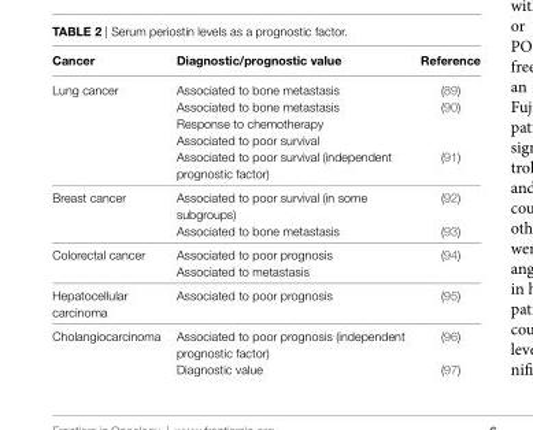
<table><thead><tr><td>Cancer</td><td>Diagnostic/prognostic value</td><td>Reference</td></tr></thead><tbody><tr><td rowspan="5">Lung cancer</td><td>Associated to bone metastasis</td><td>(89)</td></tr><tr><td>Associated to bone metastasis</td><td rowspan="3">(90)</td></tr><tr><td>Response to chemotherapy</td></tr><tr><td>Associated to poor survival</td></tr><tr><td>Associated to poor survival (independent prognostic factor)</td><td>(91)</td></tr><tr><td rowspan="2">Breast cancer</td><td>Associated to poor survival (in some subgroups)</td><td>(92)</td></tr><tr><td>Associated to bone metastasis</td><td>(93)</td></tr><tr><td rowspan="2">Colorectal cancer</td><td>Associated to poor prognosis</td><td rowspan="2">(94)</td></tr><tr><td>Associated to metastasis</td></tr><tr><td>Hepatocellular carcinoma</td><td>Associated to poor prognosis</td><td>(95)</td></tr><tr><td rowspan="2">Cholangiocarcinoma</td><td>Associated to poor prognosis (independent prognostic factor)</td><td>(96)</td></tr><tr><td>Diagnostic value</td><td>(97)</td></tr></tbody></table>